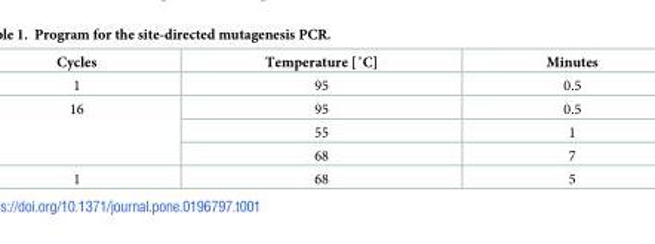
<table><thead><tr><td>Cycles</td><td>Temperature [˚C]</td><td>Minutes</td></tr></thead><tbody><tr><td>1</td><td>95</td><td>0.5</td></tr><tr><td rowspan="3">16</td><td>95</td><td>0.5</td></tr><tr><td>55</td><td>1</td></tr><tr><td>68</td><td>7</td></tr><tr><td>1</td><td>68</td><td>5</td></tr></tbody></table>